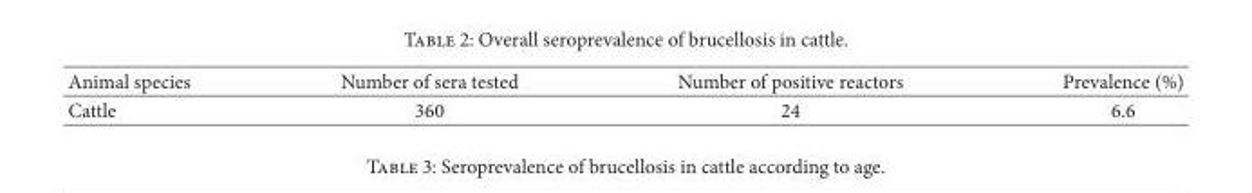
<table><thead><tr><td>Animal species</td><td>Number of sera tested</td><td>Number of positive reactors</td><td>Prevalence (%)</td></tr></thead><tbody><tr><td>Cattle</td><td>360</td><td>24</td><td>6.6</td></tr></tbody></table>